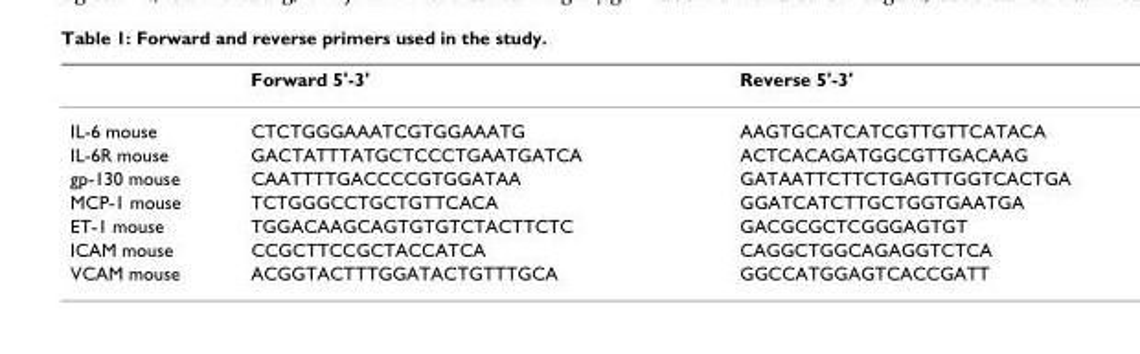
<table><thead><tr><td></td><td>Forward 5&#x27;-3&#x27;</td><td>Reverse 5&#x27;-3&#x27;</td></tr></thead><tbody><tr><td>IL-6 mouse</td><td>CTCTGGGAAATCGTGGAAATG</td><td>AAGTGCATCATCGTTGTTCATACA</td></tr><tr><td>IL-6R mouse</td><td>GACTATTTATGCTCCCTGAATGATCA</td><td>ACTCACAGATGGCGTTGACAAG</td></tr><tr><td>gp-130 mouse</td><td>CAATTTTGACCCCGTGGATAA</td><td>GATAATTCTTCTGAGTTGGTCACTGA</td></tr><tr><td>MCP-1 mouse</td><td>TCTGGGCCTGCTGTTCACA</td><td>GGATCATCTTGCTGGTGAATGA</td></tr><tr><td>ET-1 mouse</td><td>TGGACAAGCAGTGTGTCTACTTCTC</td><td>GACGCGCTCGGGAGTGT</td></tr><tr><td>ICAM mouse</td><td>CCGCTTCCGCTACCATCA</td><td>CAGGCTGGCAGAGGTCTCA</td></tr><tr><td>VCAM mouse</td><td>ACGGTACTTTGGATACTGTTTGCA</td><td>GGCCATGGAGTCACCGATT</td></tr></tbody></table>